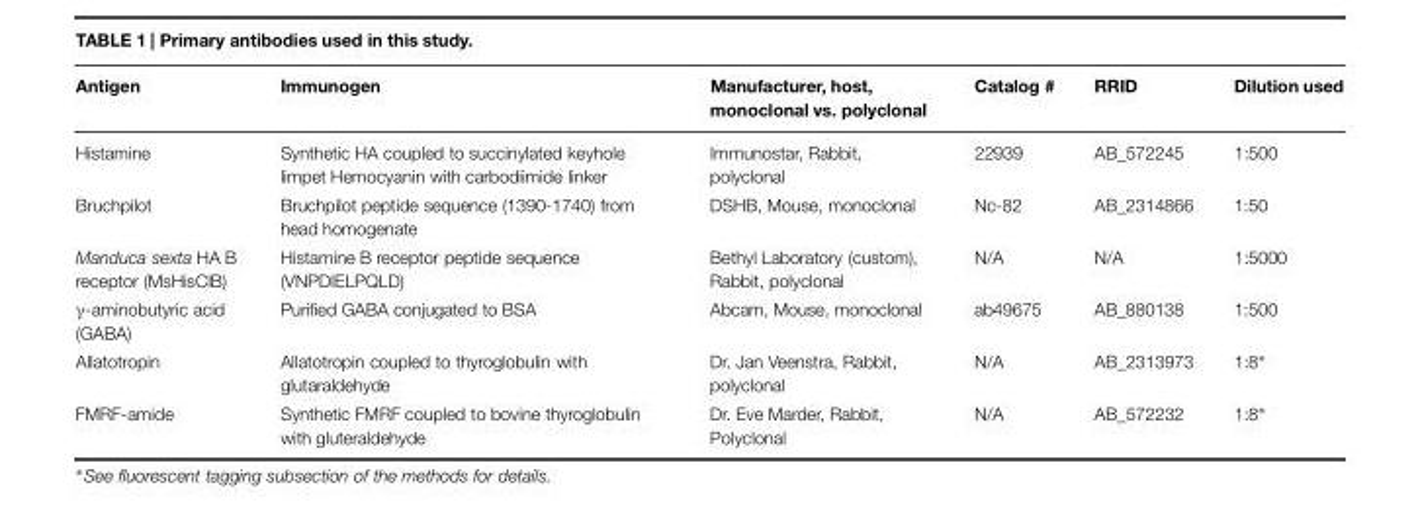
<table><thead><tr><td>Antigen</td><td>Immunogen</td><td>Manufacturer, host, monoclonal vs. polyclonal</td><td>Catalog #</td><td>RRID</td><td>Dilution used</td></tr></thead><tbody><tr><td>Histamine</td><td>Synthetic HA coupled to succinylated keyhole limpet Hemocyanin with carbodiimide linker</td><td>Immunostar, Rabbit, polyclonal</td><td>22939</td><td>AB_572245</td><td>1:500</td></tr><tr><td>Bruchpilot</td><td>Bruchpilot peptide sequence (1390-1740) from head homogenate</td><td>DSHB, Mouse, monoclonal</td><td>Nc-82</td><td>AB_2314866</td><td>1:50</td></tr><tr><td>Manduca sexta HA B receptor (MsHisClB)</td><td>Histamine B receptor peptide sequence (VNPDIELPQLD)</td><td>Bethyl Laboratory (custom), Rabbit, polyclonal</td><td>N/A</td><td>N/A</td><td>1:5000</td></tr><tr><td>γ-aminobutyric acid (GABA)</td><td>Purified GABA conjugated to BSA</td><td>Abcam, Mouse, monoclonal</td><td>ab49675</td><td>AB_880138</td><td>1:500</td></tr><tr><td>Allatotropin</td><td>Allatotropin coupled to thyroglobulin with glutaraldehyde</td><td>Dr. Jan Veenstra, Rabbit, polyclonal</td><td>N/A</td><td>AB_2313973</td><td>1:8∗</td></tr><tr><td>FMRF-amide</td><td>Synthetic FMRF coupled to bovine thyroglobulin with gluteraldehyde</td><td>Dr. Eve Marder, Rabbit, Polyclonal</td><td>N/A</td><td>AB_572232</td><td>1:8∗</td></tr></tbody></table>